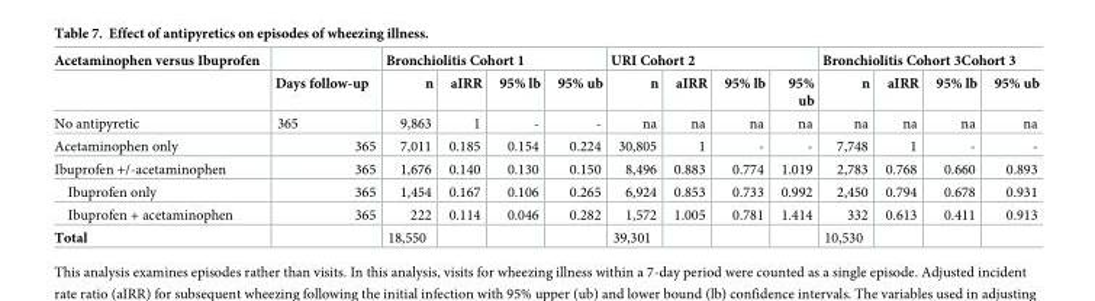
<table><thead><tr><td rowspan="2">Acetaminophen versus Ibuprofen</td><td rowspan="2">Days follow-up</td><td colspan="4">Bronchiolitis Cohort 1</td><td colspan="4">URI Cohort 2</td><td colspan="4">Bronchiolitis Cohort 3Cohort 3</td></tr><tr><td>n</td><td>aIRR</td><td>95% lb</td><td>95% ub</td><td>n</td><td>aIRR</td><td>95% lb</td><td>95% ub</td><td>n</td><td>aIRR</td><td>95% lb</td><td>95% ub</td></tr></thead><tbody><tr><td>No antipyretic</td><td>365</td><td>9,863</td><td>1</td><td>-</td><td>-</td><td>na</td><td>na</td><td>na</td><td>na</td><td>na</td><td>na</td><td>na</td><td>na</td></tr><tr><td>Acetaminophen only</td><td>365</td><td>7,011</td><td>0.185</td><td>0.154</td><td>0.224</td><td>30,805</td><td>1</td><td>-</td><td>-</td><td>7,748</td><td>1</td><td>-</td><td>-</td></tr><tr><td>Ibuprofen +/-acetaminophen</td><td>365</td><td>1,676</td><td>0.140</td><td>0.130</td><td>0.150</td><td>8,496</td><td>0.883</td><td>0.774</td><td>1.019</td><td>2,783</td><td>0.768</td><td>0.660</td><td>0.893</td></tr><tr><td>Ibuprofen only</td><td>365</td><td>1,454</td><td>0.167</td><td>0.106</td><td>0.265</td><td>6,924</td><td>0.853</td><td>0.733</td><td>0.992</td><td>2,450</td><td>0.794</td><td>0.678</td><td>0.931</td></tr><tr><td>Ibuprofen + acetaminophen</td><td>365</td><td>222</td><td>0.114</td><td>0.046</td><td>0.282</td><td>1,572</td><td>1.005</td><td>0.781</td><td>1.414</td><td>332</td><td>0.613</td><td>0.411</td><td>0.913</td></tr><tr><td>Total</td><td></td><td>18,550</td><td></td><td></td><td></td><td>39,301</td><td></td><td></td><td></td><td>10,530</td><td></td><td></td><td></td></tr></tbody></table>